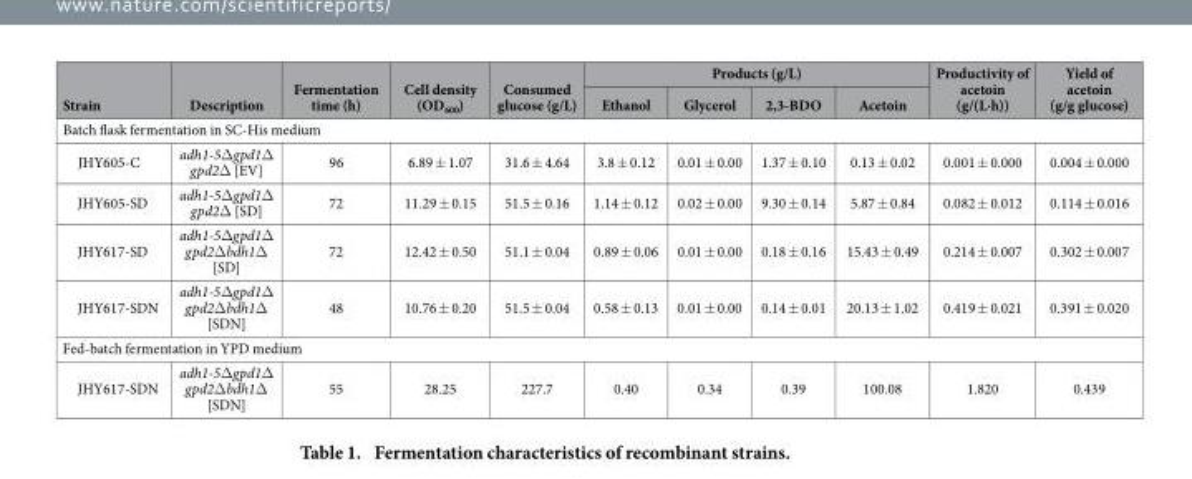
<table><thead><tr><td rowspan="2">Strain</td><td rowspan="2">Description</td><td rowspan="2">Fermentation time (h)</td><td rowspan="2">Cell density (OD<sub>600</sub>)</td><td rowspan="2">Consumed glucose (g/L)</td><td colspan="4">Products (g/L)</td><td rowspan="2">Productivity of acetoin (g/(L·h))</td><td rowspan="2">Yield of acetoin (g/g glucose)</td></tr><tr><td>Ethanol</td><td>Glycerol</td><td>2,3-BDO</td><td>Acetoin</td></tr></thead><tbody><tr><td colspan="11">Batch flask fermentation in SC-His medium</td></tr><tr><td>JHY605-C</td><td>adh1-5Δ gpd1Δ gpd2Δ [EV]</td><td>96</td><td>6.89 ± 1.07</td><td>31.6 ± 4.64</td><td>3.8 ± 0.12</td><td>0.01 ± 0.00</td><td>1.37 ± 0.10</td><td>0.13 ± 0.02</td><td>0.001 ± 0.000</td><td>0.004 ± 0.000</td></tr><tr><td>JHY605-SD</td><td>adh1-5Δ gpd1Δ gpd2Δ [SD]</td><td>72</td><td>11.29 ± 0.15</td><td>51.5 ± 0.16</td><td>1.14 ± 0.12</td><td>0.02 ± 0.00</td><td>9.30 ± 0.14</td><td>5.87 ± 0.84</td><td>0.082 ± 0.012</td><td>0.114 ± 0.016</td></tr><tr><td>JHY617-SD</td><td>adh1-5Δ gpd1Δ gpd2Δ bdh1Δ [SD]</td><td>72</td><td>12.42 ± 0.50</td><td>51.1 ± 0.04</td><td>0.89 ± 0.06</td><td>0.01 ± 0.00</td><td>0.18 ± 0.16</td><td>15.43 ± 0.49</td><td>0.214 ± 0.007</td><td>0.302 ± 0.007</td></tr><tr><td>JHY617-SDN</td><td>adh1-5Δ gpd1Δ gpd2Δ bdh1Δ [SDN]</td><td>48</td><td>10.76 ± 0.20</td><td>51.5 ± 0.04</td><td>0.58 ± 0.13</td><td>0.01 ± 0.00</td><td>0.14 ± 0.01</td><td>20.13 ± 1.02</td><td>0.419 ± 0.021</td><td>0.391 ± 0.020</td></tr><tr><td colspan="11">Fed-batch fermentation in YPD medium</td></tr><tr><td>JHY617-SDN</td><td>adh1-5Δ gpd1Δ gpd2Δ bdh1Δ [SDN]</td><td>55</td><td>28.25</td><td>227.7</td><td>0.40</td><td>0.34</td><td>0.39</td><td>100.08</td><td>1.820</td><td>0.439</td></tr></tbody></table>